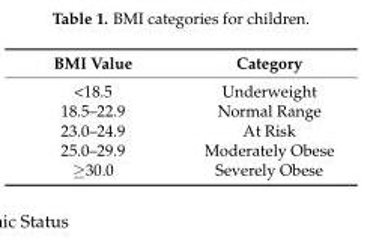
<table><thead><tr><td>BMI Value</td><td>Category</td></tr></thead><tbody><tr><td>&lt;18.5</td><td>Underweight</td></tr><tr><td>18.5–22.9</td><td>Normal Range</td></tr><tr><td>23.0–24.9</td><td>At Risk</td></tr><tr><td>25.0–29.9</td><td>Moderately Obese</td></tr><tr><td>≥30.0</td><td>Severely Obese</td></tr></tbody></table>